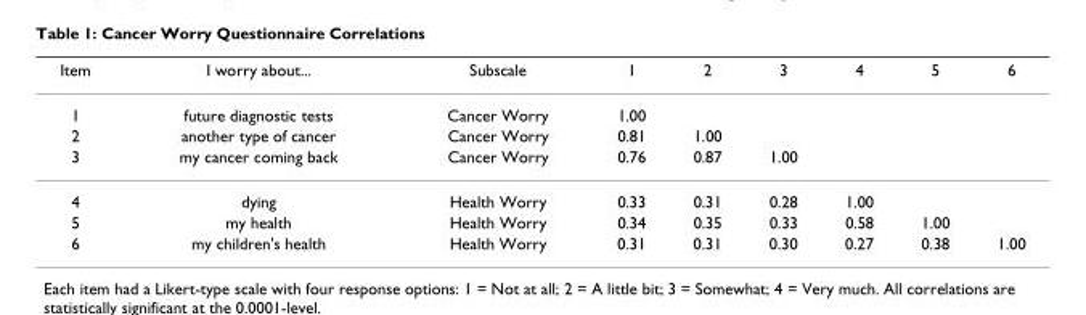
<table><thead><tr><td>Item</td><td>I worry about...</td><td>Subscale</td><td>1</td><td>2</td><td>3</td><td>4</td><td>5</td><td>6</td></tr></thead><tbody><tr><td>1</td><td>future diagnostic tests</td><td>Cancer Worry</td><td>1.00</td><td></td><td></td><td></td><td></td><td></td></tr><tr><td>2</td><td>another type of cancer</td><td>Cancer Worry</td><td>0.81</td><td>1.00</td><td></td><td></td><td></td><td></td></tr><tr><td>3</td><td>my cancer coming back</td><td>Cancer Worry</td><td>0.76</td><td>0.87</td><td>1.00</td><td></td><td></td><td></td></tr><tr><td>4</td><td>dying</td><td>Health Worry</td><td>0.33</td><td>0.31</td><td>0.28</td><td>1.00</td><td></td><td></td></tr><tr><td>5</td><td>my health</td><td>Health Worry</td><td>0.34</td><td>0.35</td><td>0.33</td><td>0.58</td><td>1.00</td><td></td></tr><tr><td>6</td><td>my children&#x27;s health</td><td>Health Worry</td><td>0.31</td><td>0.31</td><td>0.30</td><td>0.27</td><td>0.38</td><td>1.00</td></tr></tbody></table>